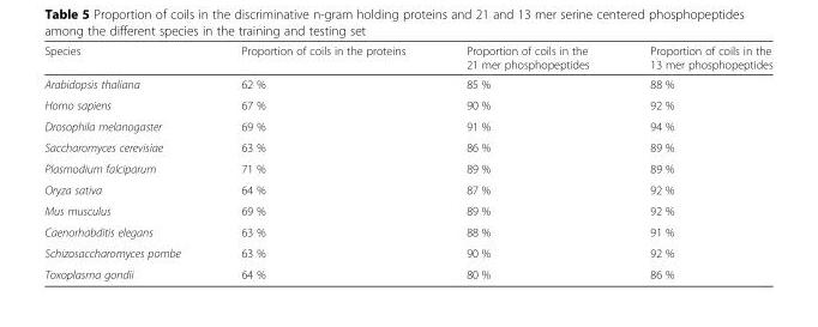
<table><thead><tr><td>Species</td><td>Proportion of coils in the proteins</td><td>Proportion of coils in the 21 mer phosphopeptides</td><td>Proportion of coils in the 13 mer phosphopeptides</td></tr></thead><tbody><tr><td>Arabidopsis thaliana</td><td>62 %</td><td>85 %</td><td>88 %</td></tr><tr><td>Homo sapiens</td><td>67 %</td><td>90 %</td><td>92 %</td></tr><tr><td>Drosophila melanogaster</td><td>69 %</td><td>91 %</td><td>94 %</td></tr><tr><td>Saccharomyces cerevisiae</td><td>63 %</td><td>86 %</td><td>89 %</td></tr><tr><td>Plasmodium falciparum</td><td>71 %</td><td>89 %</td><td>89 %</td></tr><tr><td>Oryza sativa</td><td>64 %</td><td>87 %</td><td>92 %</td></tr><tr><td>Mus musculus</td><td>69 %</td><td>89 %</td><td>92 %</td></tr><tr><td>Caenorhabditis elegans</td><td>63 %</td><td>88 %</td><td>91 %</td></tr><tr><td>Schizosaccharomyces pombe</td><td>63 %</td><td>90 %</td><td>92 %</td></tr><tr><td>Toxoplasma gondii</td><td>64 %</td><td>80 %</td><td>86 %</td></tr></tbody></table>